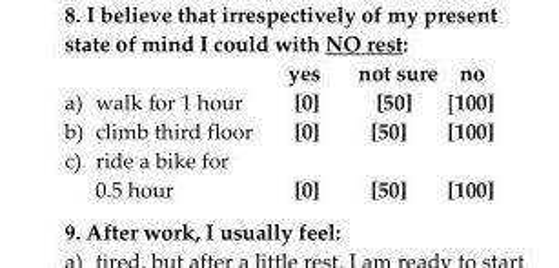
<table><thead><tr><td></td><td>yes</td><td>not sure</td><td>no</td></tr></thead><tbody><tr><td>a) walk for 1 hour</td><td>[0]</td><td>[50]</td><td>[100]</td></tr><tr><td>b) climb third floor</td><td>[0]</td><td>[50]</td><td>[100]</td></tr><tr><td>c) ride a bike for 0.5 hour</td><td>[0]</td><td>[50]</td><td>[100]</td></tr></tbody></table>